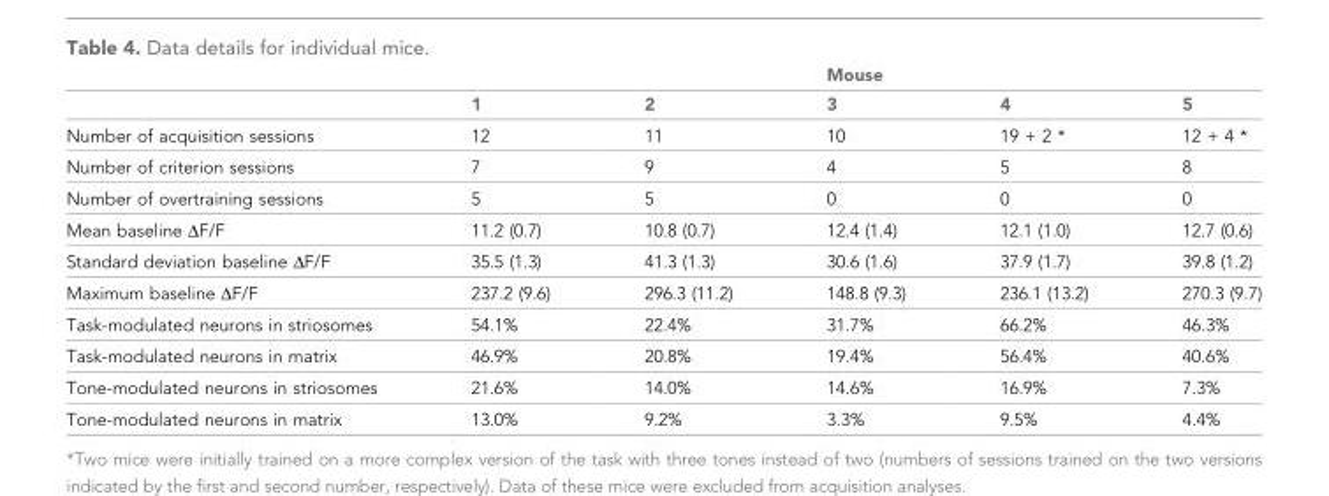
<table><thead><tr><td rowspan="2"></td><td rowspan="2">1</td><td rowspan="2">2</td><td rowspan="2">Mouse 3</td><td rowspan="2">4</td><td rowspan="2">5</td></tr><tr></tr></thead><tbody><tr><td>Number of acquisition sessions</td><td>12</td><td>11</td><td>10</td><td>19 + 2 *</td><td>12 + 4 *</td></tr><tr><td>Number of criterion sessions</td><td>7</td><td>9</td><td>4</td><td>5</td><td>8</td></tr><tr><td>Number of overtraining sessions</td><td>5</td><td>5</td><td>0</td><td>0</td><td>0</td></tr><tr><td>Mean baseline ΔF/F</td><td>11.2 (0.7)</td><td>10.8 (0.7)</td><td>12.4 (1.4)</td><td>12.1 (1.0)</td><td>12.7 (0.6)</td></tr><tr><td>Standard deviation baseline ΔF/F</td><td>35.5 (1.3)</td><td>41.3 (1.3)</td><td>30.6 (1.6)</td><td>37.9 (1.7)</td><td>39.8 (1.2)</td></tr><tr><td>Maximum baseline ΔF/F</td><td>237.2 (9.6)</td><td>296.3 (11.2)</td><td>148.8 (9.3)</td><td>236.1 (13.2)</td><td>270.3 (9.7)</td></tr><tr><td>Task-modulated neurons in striosomes</td><td>54.1%</td><td>22.4%</td><td>31.7%</td><td>66.2%</td><td>46.3%</td></tr><tr><td>Task-modulated neurons in matrix</td><td>46.9%</td><td>20.8%</td><td>19.4%</td><td>56.4%</td><td>40.6%</td></tr><tr><td>Tone-modulated neurons in striosomes</td><td>21.6%</td><td>14.0%</td><td>14.6%</td><td>16.9%</td><td>7.3%</td></tr><tr><td>Tone-modulated neurons in matrix</td><td>13.0%</td><td>9.2%</td><td>3.3%</td><td>9.5%</td><td>4.4%</td></tr></tbody></table>